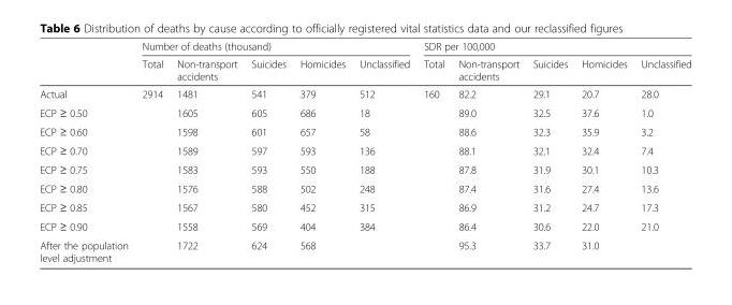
<table><thead><tr><td rowspan="2"></td><td colspan="5">Number of deaths (thousand)</td><td colspan="5">SDR per 100,000</td></tr><tr><td>Total</td><td>Non-transport accidents</td><td>Suicides</td><td>Homicides</td><td>Unclassified</td><td>Total</td><td>Non-transport accidents</td><td>Suicides</td><td>Homicides</td><td>Unclassified</td></tr></thead><tbody><tr><td>Actual</td><td rowspan="9">2914</td><td>1481</td><td>541</td><td>379</td><td>512</td><td rowspan="9">160</td><td>82.2</td><td>29.1</td><td>20.7</td><td>28.0</td></tr><tr><td>ECP ≥ 0.50</td><td>1605</td><td>605</td><td>686</td><td>18</td><td>89.0</td><td>32.5</td><td>37.6</td><td>1.0</td></tr><tr><td>ECP ≥ 0.60</td><td>1598</td><td>601</td><td>657</td><td>58</td><td>88.6</td><td>32.3</td><td>35.9</td><td>3.2</td></tr><tr><td>ECP ≥ 0.70</td><td>1589</td><td>597</td><td>593</td><td>136</td><td>88.1</td><td>32.1</td><td>32.4</td><td>7.4</td></tr><tr><td>ECP ≥ 0.75</td><td>1583</td><td>593</td><td>550</td><td>188</td><td>87.8</td><td>31.9</td><td>30.1</td><td>10.3</td></tr><tr><td>ECP ≥ 0.80</td><td>1576</td><td>588</td><td>502</td><td>248</td><td>87.4</td><td>31.6</td><td>27.4</td><td>13.6</td></tr><tr><td>ECP ≥ 0.85</td><td>1567</td><td>580</td><td>452</td><td>315</td><td>86.9</td><td>31.2</td><td>24.7</td><td>17.3</td></tr><tr><td>ECP ≥ 0.90</td><td>1558</td><td>569</td><td>404</td><td>384</td><td>86.4</td><td>30.6</td><td>22.0</td><td>21.0</td></tr><tr><td>After the population level adjustment</td><td>1722</td><td>624</td><td>568</td><td></td><td>95.3</td><td>33.7</td><td>31.0</td><td></td></tr></tbody></table>